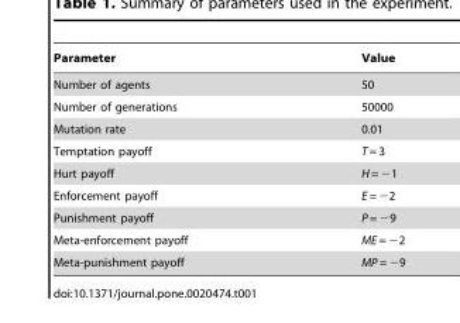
<table><thead><tr><td>Parameter</td><td>Value</td></tr></thead><tbody><tr><td>Number of agents</td><td>50</td></tr><tr><td>Number of generations</td><td>50000</td></tr><tr><td>Mutation rate</td><td>0.01</td></tr><tr><td>Temptation payoff</td><td>T = 3</td></tr><tr><td>Hurt payoff</td><td>H = −1</td></tr><tr><td>Enforcement payoff</td><td>E = −2</td></tr><tr><td>Punishment payoff</td><td>P = −9</td></tr><tr><td>Meta-enforcement payoff</td><td>ME = −2</td></tr><tr><td>Meta-punishment payoff</td><td>MP = −9</td></tr></tbody></table>